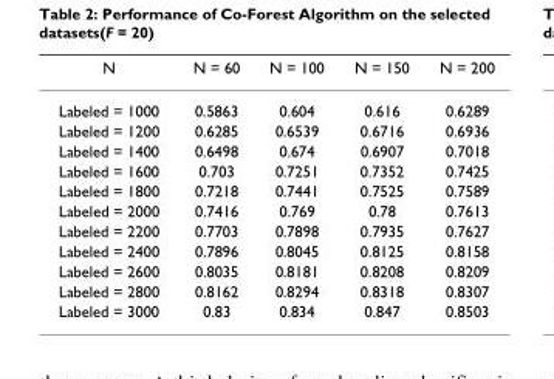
<table><thead><tr><td>N</td><td>N = 60</td><td>N = 100</td><td>N = 150</td><td>N = 200</td></tr></thead><tbody><tr><td>Labeled = 1000</td><td>0.5863</td><td>0.604</td><td>0.616</td><td>0.6289</td></tr><tr><td>Labeled = 1200</td><td>0.6285</td><td>0.6539</td><td>0.6716</td><td>0.6936</td></tr><tr><td>Labeled = 1400</td><td>0.6498</td><td>0.674</td><td>0.6907</td><td>0.7018</td></tr><tr><td>Labeled = 1600</td><td>0.703</td><td>0.7251</td><td>0.7352</td><td>0.7425</td></tr><tr><td>Labeled = 1800</td><td>0.7218</td><td>0.7441</td><td>0.7525</td><td>0.7589</td></tr><tr><td>Labeled = 2000</td><td>0.7416</td><td>0.769</td><td>0.78</td><td>0.7613</td></tr><tr><td>Labeled = 2200</td><td>0.7703</td><td>0.7898</td><td>0.7935</td><td>0.7627</td></tr><tr><td>Labeled = 2400</td><td>0.7896</td><td>0.8045</td><td>0.8125</td><td>0.8158</td></tr><tr><td>Labeled = 2600</td><td>0.8035</td><td>0.8181</td><td>0.8208</td><td>0.8209</td></tr><tr><td>Labeled = 2800</td><td>0.8162</td><td>0.8294</td><td>0.8318</td><td>0.8307</td></tr><tr><td>Labeled = 3000</td><td>0.83</td><td>0.834</td><td>0.847</td><td>0.8503</td></tr></tbody></table>